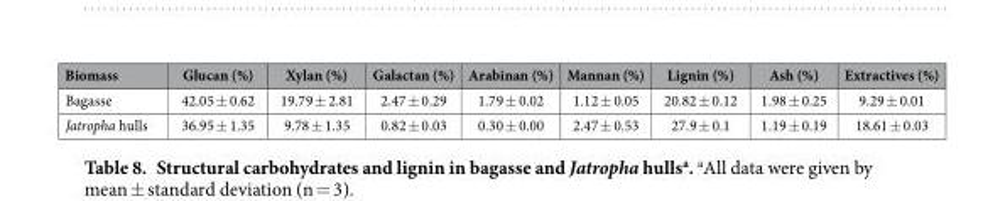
<table><thead><tr><td>Biomass</td><td>Glucan (%)</td><td>Xylan (%)</td><td>Galactan (%)</td><td>Arabinan (%)</td><td>Mannan (%)</td><td>Lignin (%)</td><td>Ash (%)</td><td>Extractives (%)</td></tr></thead><tbody><tr><td>Bagasse</td><td>42.05 ± 0.62</td><td>19.79 ± 2.81</td><td>2.47 ± 0.29</td><td>1.79 ± 0.02</td><td>1.12 ± 0.05</td><td>20.82 ± 0.12</td><td>1.98 ± 0.25</td><td>9.29 ± 0.01</td></tr><tr><td>Jatropha hulls</td><td>36.95 ± 1.35</td><td>9.78 ± 1.35</td><td>0.82 ± 0.03</td><td>0.30 ± 0.00</td><td>2.47 ± 0.53</td><td>27.9 ± 0.1</td><td>1.19 ± 0.19</td><td>18.61 ± 0.03</td></tr></tbody></table>